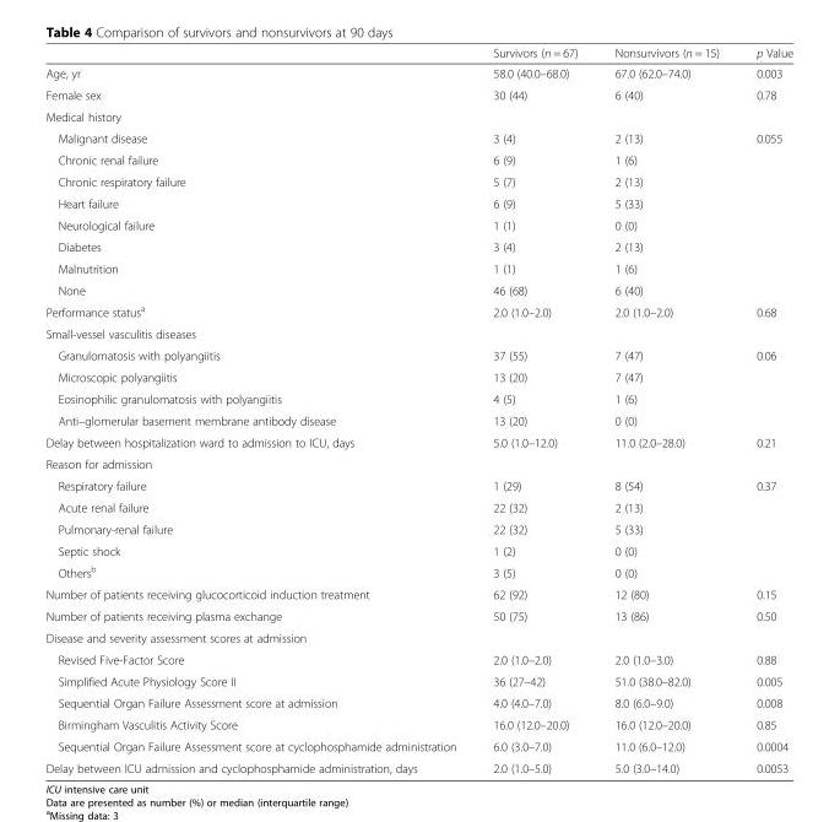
<table><thead><tr><td></td><td>Survivors (n = 67)</td><td>Nonsurvivors (n = 15)</td><td>p Value</td></tr></thead><tbody><tr><td>Age, yr</td><td>58.0 (40.0–68.0)</td><td>67.0 (62.0–74.0)</td><td>0.003</td></tr><tr><td>Female sex</td><td>30 (44)</td><td>6 (40)</td><td>0.78</td></tr><tr><td colspan="4">Medical history</td></tr><tr><td>Malignant disease</td><td>3 (4)</td><td>2 (13)</td><td>0.055</td></tr><tr><td>Chronic renal failure</td><td>6 (9)</td><td>1 (6)</td><td></td></tr><tr><td>Chronic respiratory failure</td><td>5 (7)</td><td>2 (13)</td><td></td></tr><tr><td>Heart failure</td><td>6 (9)</td><td>5 (33)</td><td></td></tr><tr><td>Neurological failure</td><td>1 (1)</td><td>0 (0)</td><td></td></tr><tr><td>Diabetes</td><td>3 (4)</td><td>2 (13)</td><td></td></tr><tr><td>Malnutrition</td><td>1 (1)</td><td>1 (6)</td><td></td></tr><tr><td>None</td><td>46 (68)</td><td>6 (40)</td><td></td></tr><tr><td>Performance status<sup>a</sup></td><td>2.0 (1.0–2.0)</td><td>2.0 (1.0–2.0)</td><td>0.68</td></tr><tr><td colspan="4">Small-vessel vasculitis diseases</td></tr><tr><td>Granulomatosis with polyangiitis</td><td>37 (55)</td><td>7 (47)</td><td>0.06</td></tr><tr><td>Microscopic polyangiitis</td><td>13 (20)</td><td>7 (47)</td><td></td></tr><tr><td>Eosinophilic granulomatosis with polyangiitis</td><td>4 (5)</td><td>1 (6)</td><td></td></tr><tr><td>Anti–glomerular basement membrane antibody disease</td><td>13 (20)</td><td>0 (0)</td><td></td></tr><tr><td>Delay between hospitalization ward to admission to ICU, days</td><td>5.0 (1.0–12.0)</td><td>11.0 (2.0–28.0)</td><td>0.21</td></tr><tr><td colspan="4">Reason for admission</td></tr><tr><td>Respiratory failure</td><td>1 (29)</td><td>8 (54)</td><td>0.37</td></tr><tr><td>Acute renal failure</td><td>22 (32)</td><td>2 (13)</td><td></td></tr><tr><td>Pulmonary-renal failure</td><td>22 (32)</td><td>5 (33)</td><td></td></tr><tr><td>Septic shock</td><td>1 (2)</td><td>0 (0)</td><td></td></tr><tr><td>Others<sup>b</sup></td><td>3 (5)</td><td>0 (0)</td><td></td></tr><tr><td>Number of patients receiving glucocorticoid induction treatment</td><td>62 (92)</td><td>12 (80)</td><td>0.15</td></tr><tr><td>Number of patients receiving plasma exchange</td><td>50 (75)</td><td>13 (86)</td><td>0.50</td></tr><tr><td colspan="4">Disease and severity assessment scores at admission</td></tr><tr><td>Revised Five-Factor Score</td><td>2.0 (1.0–2.0)</td><td>2.0 (1.0–3.0)</td><td>0.88</td></tr><tr><td>Simplified Acute Physiology Score II</td><td>36 (27–42)</td><td>51.0 (38.0–82.0)</td><td>0.005</td></tr><tr><td>Sequential Organ Failure Assessment score at admission</td><td>4.0 (4.0–7.0)</td><td>8.0 (6.0–9.0)</td><td>0.008</td></tr><tr><td>Birmingham Vasculitis Activity Score</td><td>16.0 (12.0–20.0)</td><td>16.0 (12.0–20.0)</td><td>0.85</td></tr><tr><td>Sequential Organ Failure Assessment score at cyclophosphamide administration</td><td>6.0 (3.0–7.0)</td><td>11.0 (6.0–12.0)</td><td>0.0004</td></tr><tr><td>Delay between ICU admission and cyclophosphamide administration, days</td><td>2.0 (1.0–5.0)</td><td>5.0 (3.0–14.0)</td><td>0.0053</td></tr></tbody></table>